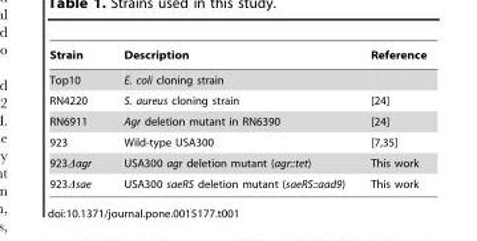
<table><thead><tr><td>Strain</td><td>Description</td><td>Reference</td></tr></thead><tbody><tr><td>Top10</td><td>E. coli cloning strain</td><td></td></tr><tr><td>RN4220</td><td>S. aureus cloning strain</td><td>[24]</td></tr><tr><td>RN6911</td><td>Agr deletion mutant in RN6390</td><td>[24]</td></tr><tr><td>923</td><td>Wild-type USA300</td><td>[7,35]</td></tr><tr><td>923Δagr</td><td>USA300 agr deletion mutant (agr::tet)</td><td>This work</td></tr><tr><td>923Δsae</td><td>USA300 saeRS deletion mutant (saeRS::aad9)</td><td>This work</td></tr></tbody></table>